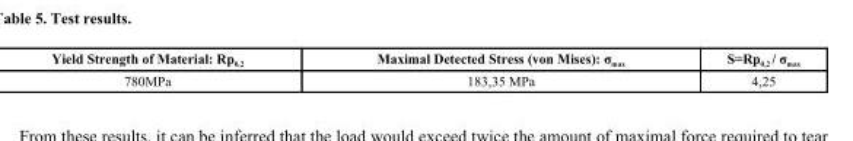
<table><thead><tr><td>Yield Strength of Material: Rp<sub>0,2</sub></td><td>Maximal Detected Stress (von Mises): σ<sub>max</sub></td><td>S=Rp<sub>0,2</sub> / σ<sub>max</sub></td></tr></thead><tbody><tr><td>780MPa</td><td>183,35 MPa</td><td>4,25</td></tr></tbody></table>